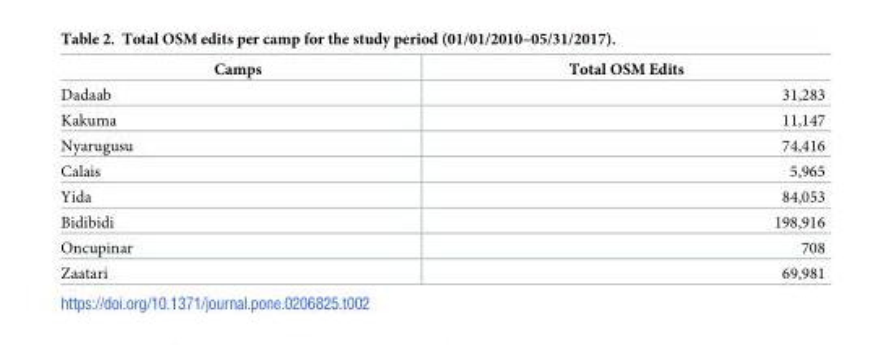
<table><thead><tr><td>Camps</td><td>Total OSM Edits</td></tr></thead><tbody><tr><td>Dadaab</td><td>31,283</td></tr><tr><td>Kakuma</td><td>11,147</td></tr><tr><td>Nyarugusu</td><td>74,416</td></tr><tr><td>Calais</td><td>5,965</td></tr><tr><td>Yida</td><td>84,053</td></tr><tr><td>Bidibidi</td><td>198,916</td></tr><tr><td>Oncupinar</td><td>708</td></tr><tr><td>Zaatari</td><td>69,981</td></tr></tbody></table>